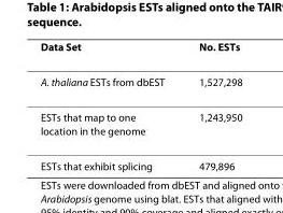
<table><thead><tr><td>Data Set</td><td>No. ESTs</td></tr></thead><tbody><tr><td>A. thaliana ESTs from dbEST</td><td>1,527,298</td></tr><tr><td>ESTs that map to one location in the genome</td><td>1,243,950</td></tr><tr><td>ESTs that exhibit splicing</td><td>479,896</td></tr></tbody></table>